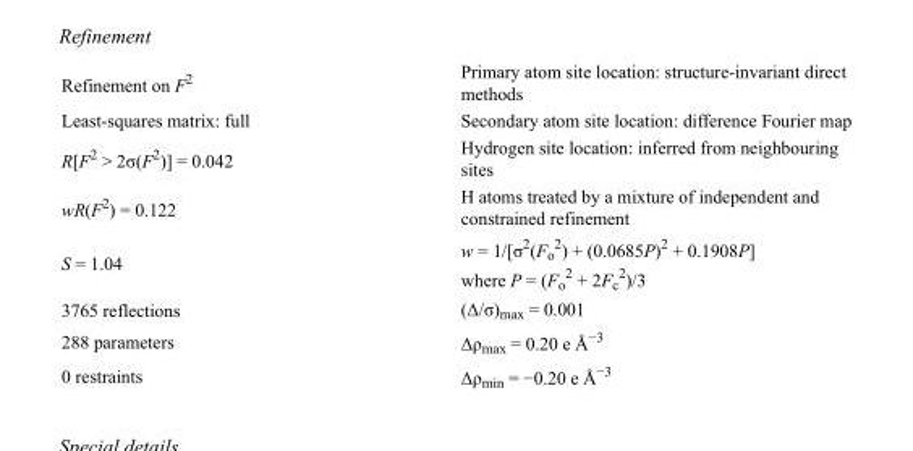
<table><tbody><tr><td>Refinement on F<sup>2</sup></td><td>Primary atom site location: structure-invariant direct methods</td></tr><tr><td>Least-squares matrix: full</td><td>Secondary atom site location: difference Fourier map</td></tr><tr><td>R[F<sup>2</sup> &gt; 2σ(F<sup>2</sup>)] = 0.042</td><td>Hydrogen site location: inferred from neighbouring sites</td></tr><tr><td>wR(F<sup>2</sup>) = 0.122</td><td>H atoms treated by a mixture of independent and constrained refinement</td></tr><tr><td>S = 1.04</td><td>w = 1/[σ<sup>2</sup>(F<sub>o</sub> <sup>2</sup>) + (0.0685P)<sup>2</sup> + 0.1908P] where P = (F<sub>o</sub> <sup>2</sup> + 2F<sub>c</sub> <sup>2</sup>)/3</td></tr><tr><td>3765 reflections</td><td>(Δ/σ)<sub>max</sub> = 0.001</td></tr><tr><td>288 parameters</td><td>Δρ<sub>max</sub> = 0.20 e Å<sup>−3</sup></td></tr><tr><td>0 restraints</td><td>Δρ<sub>min</sub> = −0.20 e Å<sup>−3</sup></td></tr></tbody></table>